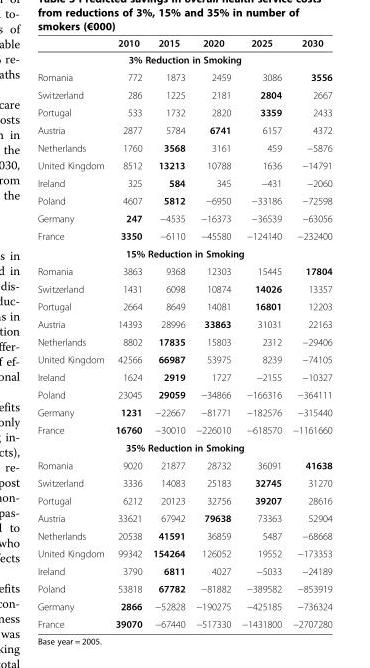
<table><thead><tr><td></td><td>2010</td><td>2015</td><td>2020</td><td>2025</td><td>2030</td></tr></thead><tbody><tr><td colspan="6">3% Reduction in Smoking</td></tr><tr><td>Romania</td><td>772</td><td>1873</td><td>2459</td><td>3086</td><td>3556</td></tr><tr><td>Switzerland</td><td>286</td><td>1225</td><td>2181</td><td>2804</td><td>2667</td></tr><tr><td>Portugal</td><td>533</td><td>1732</td><td>2820</td><td>3359</td><td>2433</td></tr><tr><td>Austria</td><td>2877</td><td>5784</td><td>6741</td><td>6157</td><td>4372</td></tr><tr><td>Netherlands</td><td>1760</td><td>3568</td><td>3161</td><td>459</td><td>−5876</td></tr><tr><td>United Kingdom</td><td>8512</td><td>13213</td><td>10788</td><td>1636</td><td>−14791</td></tr><tr><td>Ireland</td><td>325</td><td>584</td><td>345</td><td>−431</td><td>−2060</td></tr><tr><td>Poland</td><td>4607</td><td>5812</td><td>−6950</td><td>−33186</td><td>−72598</td></tr><tr><td>Germany</td><td>247</td><td>−4535</td><td>−16373</td><td>−36539</td><td>−63056</td></tr><tr><td>France</td><td>3350</td><td>−6110</td><td>−45580</td><td>−124140</td><td>−232400</td></tr><tr><td colspan="6">15% Reduction in Smoking</td></tr><tr><td>Romania</td><td>3863</td><td>9368</td><td>12303</td><td>15445</td><td>17804</td></tr><tr><td>Switzerland</td><td>1431</td><td>6098</td><td>10874</td><td>14026</td><td>13357</td></tr><tr><td>Portugal</td><td>2664</td><td>8649</td><td>14081</td><td>16801</td><td>12203</td></tr><tr><td>Austria</td><td>14393</td><td>28996</td><td>33863</td><td>31031</td><td>22163</td></tr><tr><td>Netherlands</td><td>8802</td><td>17835</td><td>15803</td><td>2312</td><td>−29406</td></tr><tr><td>United Kingdom</td><td>42566</td><td>66987</td><td>53975</td><td>8239</td><td>−74105</td></tr><tr><td>Ireland</td><td>1624</td><td>2919</td><td>1727</td><td>−2155</td><td>−10327</td></tr><tr><td>Poland</td><td>23045</td><td>29059</td><td>−34866</td><td>−166316</td><td>−364111</td></tr><tr><td>Germany</td><td>1231</td><td>−22667</td><td>−81771</td><td>−182576</td><td>−315440</td></tr><tr><td>France</td><td>16760</td><td>−30010</td><td>−226010</td><td>−618570</td><td>−1161660</td></tr><tr><td colspan="6">35% Reduction in Smoking</td></tr><tr><td>Romania</td><td>9020</td><td>21877</td><td>28732</td><td>36091</td><td>41638</td></tr><tr><td>Switzerland</td><td>3336</td><td>14083</td><td>25183</td><td>32745</td><td>31270</td></tr><tr><td>Portugal</td><td>6212</td><td>20123</td><td>32756</td><td>39207</td><td>28616</td></tr><tr><td>Austria</td><td>33621</td><td>67942</td><td>79638</td><td>73363</td><td>52904</td></tr><tr><td>Netherlands</td><td>20538</td><td>41591</td><td>36859</td><td>5487</td><td>−68668</td></tr><tr><td>United Kingdom</td><td>99342</td><td>154264</td><td>126052</td><td>19552</td><td>−173353</td></tr><tr><td>Ireland</td><td>3790</td><td>6811</td><td>4027</td><td>−5033</td><td>−24189</td></tr><tr><td>Poland</td><td>53818</td><td>67782</td><td>−81882</td><td>−389582</td><td>−853919</td></tr><tr><td>Germany</td><td>2866</td><td>−52828</td><td>−190275</td><td>−425185</td><td>−736324</td></tr><tr><td>France</td><td>39070</td><td>−67440</td><td>−517330</td><td>−1431800</td><td>−2707280</td></tr></tbody></table>